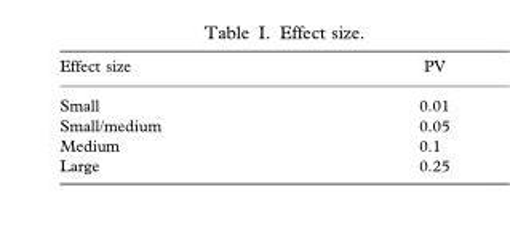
<table><thead><tr><td>Effect size</td><td>PV</td></tr></thead><tbody><tr><td>Small</td><td>0.01</td></tr><tr><td>Small/medium</td><td>0.05</td></tr><tr><td>Medium</td><td>0.1</td></tr><tr><td>Large</td><td>0.25</td></tr></tbody></table>